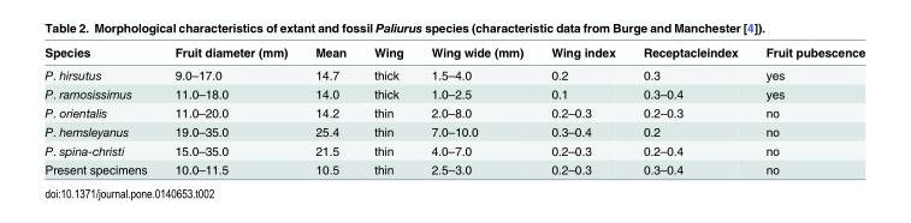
<table><thead><tr><td>Species</td><td>Fruit diameter (mm)</td><td>Mean</td><td>Wing</td><td>Wing wide (mm)</td><td>Wing index</td><td>Receptacleindex</td><td>Fruit pubescence</td></tr></thead><tbody><tr><td>P. hirsutus</td><td>9.0–17.0</td><td>14.7</td><td>thick</td><td>1.5–4.0</td><td>0.2</td><td>0.3</td><td>yes</td></tr><tr><td>P. ramosissimus</td><td>11.0–18.0</td><td>14.0</td><td>thick</td><td>1.0–2.5</td><td>0.1</td><td>0.3–0.4</td><td>yes</td></tr><tr><td>P. orientalis</td><td>11.0–20.0</td><td>14.2</td><td>thin</td><td>2.0–8.0</td><td>0.2–0.3</td><td>0.2–0.3</td><td>no</td></tr><tr><td>P. hemsleyanus</td><td>19.0–35.0</td><td>25.4</td><td>thin</td><td>7.0–10.0</td><td>0.3–0.4</td><td>0.2</td><td>no</td></tr><tr><td>P. spina-christi</td><td>15.0–35.0</td><td>21.5</td><td>thin</td><td>4.0–7.0</td><td>0.2–0.3</td><td>0.2–0.4</td><td>no</td></tr><tr><td>Present specimens</td><td>10.0–11.5</td><td>10.5</td><td>thin</td><td>2.5–3.0</td><td>0.2–0.3</td><td>0.3–0.4</td><td>no</td></tr></tbody></table>